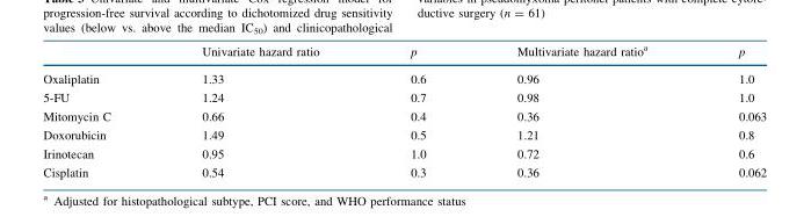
<table><thead><tr><td></td><td>Univariate hazard ratio</td><td>p</td><td>Multivariate hazard ratio<sup>a</sup></td><td>p</td></tr></thead><tbody><tr><td>Oxaliplatin</td><td>1.33</td><td>0.6</td><td>0.96</td><td>1.0</td></tr><tr><td>5-FU</td><td>1.24</td><td>0.7</td><td>0.98</td><td>1.0</td></tr><tr><td>Mitomycin C</td><td>0.66</td><td>0.4</td><td>0.36</td><td>0.063</td></tr><tr><td>Doxorubicin</td><td>1.49</td><td>0.5</td><td>1.21</td><td>0.8</td></tr><tr><td>Irinotecan</td><td>0.95</td><td>1.0</td><td>0.72</td><td>0.6</td></tr><tr><td>Cisplatin</td><td>0.54</td><td>0.3</td><td>0.36</td><td>0.062</td></tr></tbody></table>